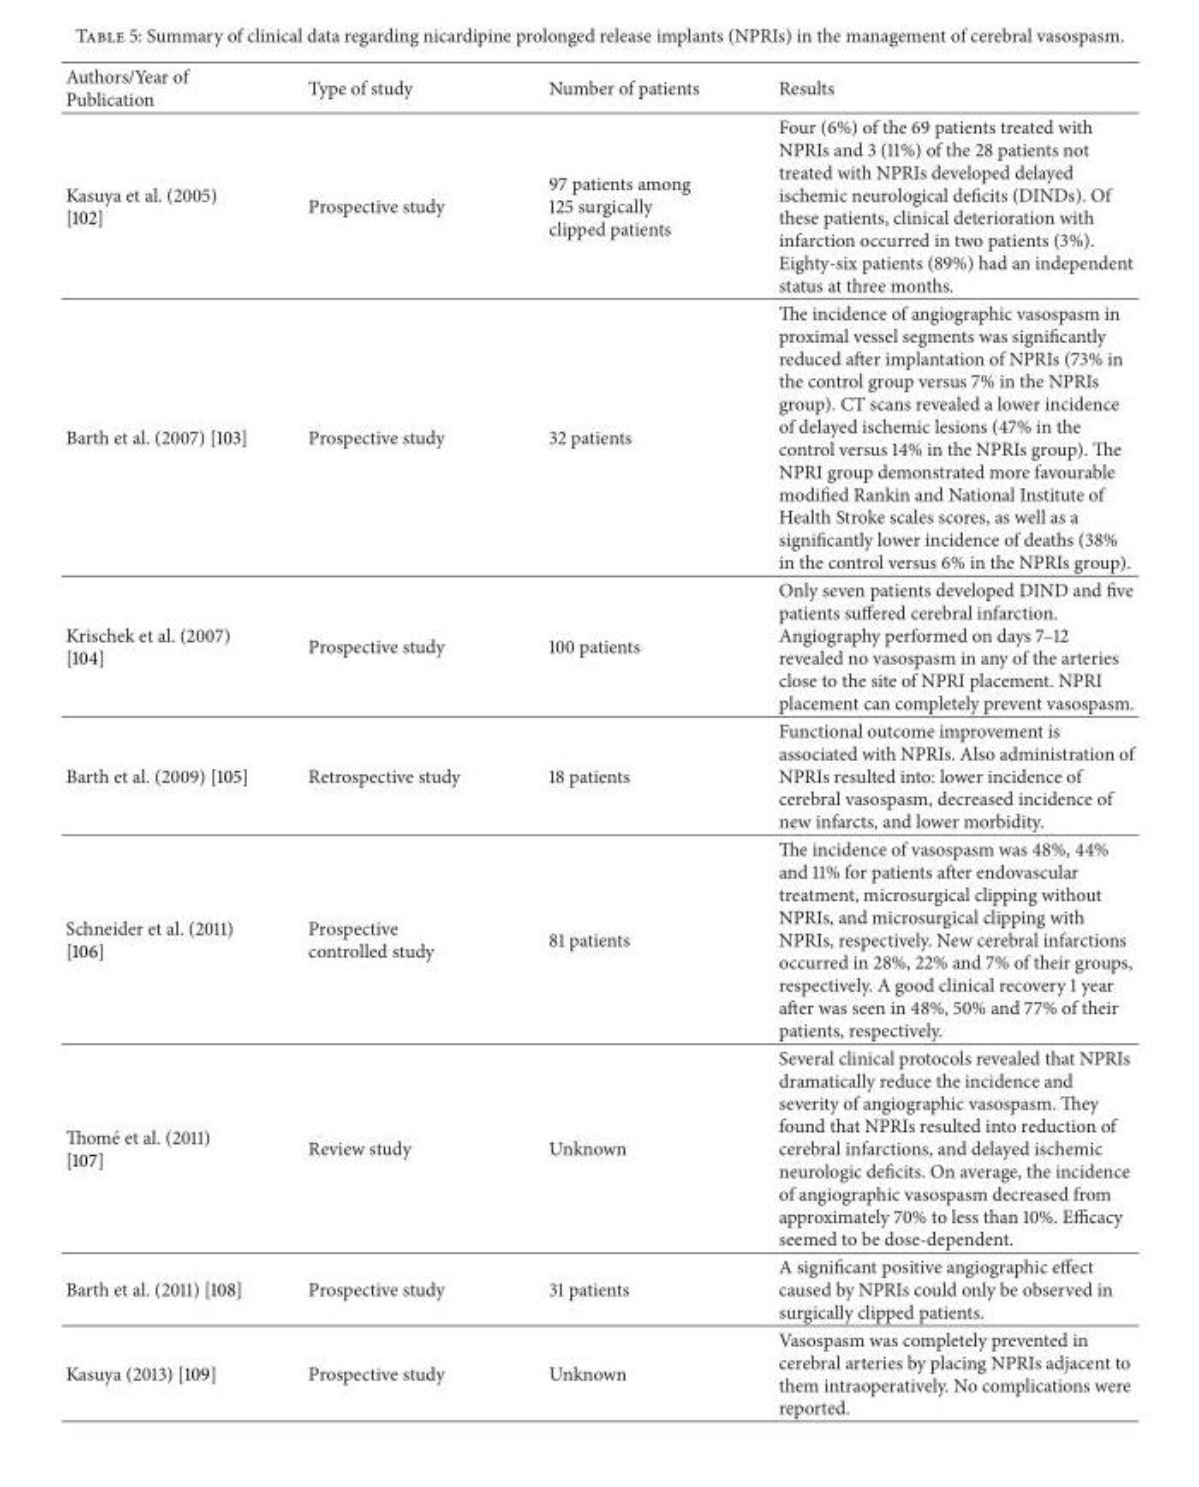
<table><thead><tr><td>Authors/Year of Publication</td><td>Type of study</td><td>Number of patients</td><td>Results</td></tr></thead><tbody><tr><td>Kasuya et al. (2005) [102]</td><td>Prospective study</td><td>97 patients among 125 surgically clipped patients</td><td>Four (6%) of the 69 patients treated with NPRIs and 3 (11%) of the 28 patients not treated with NPRIs developed delayed ischemic neurological deficits (DINDs). Of these patients, clinical deterioration with infarction occurred in two patients (3%). Eighty-six patients (89%) had an independent status at three months.</td></tr><tr><td>Barth et al. (2007) [103]</td><td>Prospective study</td><td>32 patients</td><td>The incidence of angiographic vasospasm in proximal vessel segments was significantly reduced after implantation of NPRIs (73% in the control group versus 7% in the NPRIs group). CT scans revealed a lower incidence of delayed ischemic lesions (47% in the control versus 14% in the NPRIs group). The NPRI group demonstrated more favourable modified Rankin and National Institute of Health Stroke scales scores, as well as a significantly lower incidence of deaths (38% in the control versus 6% in the NPRIs group).</td></tr><tr><td>Krischek et al. (2007) [104]</td><td>Prospective study</td><td>100 patients</td><td>Only seven patients developed DIND and five patients suffered cerebral infarction. Angiography performed on days 7–12 revealed no vasospasm in any of the arteries close to the site of NPRI placement. NPRI placement can completely prevent vasospasm.</td></tr><tr><td>Barth et al. (2009) [105]</td><td>Retrospective study</td><td>18 patients</td><td>Functional outcome improvement is associated with NPRIs. Also administration of NPRIs resulted into: lower incidence of cerebral vasospasm, decreased incidence of new infarcts, and lower morbidity.</td></tr><tr><td>Schneider et al. (2011) [106]</td><td>Prospective controlled study</td><td>81 patients</td><td>The incidence of vasospasm was 48%, 44% and 11% for patients after endovascular treatment, microsurgical clipping without NPRIs, and microsurgical clipping with NPRIs, respectively. New cerebral infarctions occurred in 28%, 22% and 7% of their groups, respectively. A good clinical recovery 1 year after was seen in 48%, 50% and 77% of their patients, respectively.</td></tr><tr><td>Thom´e et al. (2011) [107]</td><td>Review study</td><td>Unknown</td><td>Several clinical protocols revealed that NPRIs dramatically reduce the incidence and severity of angiographic vasospasm. They found that NPRIs resulted into reduction of cerebral infarctions, and delayed ischemic neurologic deficits. On average, the incidence of angiographic vasospasm decreased from approximately 70% to less than 10%. Efficacy seemed to be dose-dependent.</td></tr><tr><td>Barth et al. (2011) [108]</td><td>Prospective study</td><td>31 patients</td><td>A significant positive angiographic effect caused by NPRIs could only be observed in surgically clipped patients.</td></tr><tr><td>Kasuya (2013) [109]</td><td>Prospective study</td><td>Unknown</td><td>Vasospasm was completely prevented in cerebral arteries by placing NPRIs adjacent to them intraoperatively. No complications were reported.</td></tr></tbody></table>